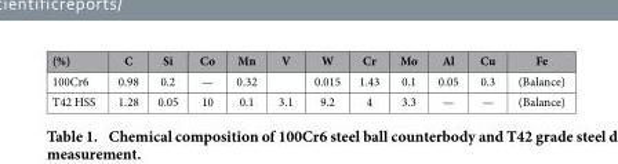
<table><thead><tr><td>(%)</td><td>C</td><td>Si</td><td>Co</td><td>Mn</td><td>V</td><td>W</td><td>Cr</td><td>Mo</td><td>Al</td><td>Cu</td><td>Fe</td></tr></thead><tbody><tr><td>100Cr6</td><td>0.98</td><td>0.2</td><td>—</td><td>0.32</td><td></td><td>0.015</td><td>1.43</td><td>0.1</td><td>0.05</td><td>0.3</td><td>(Balance)</td></tr><tr><td>T42 HSS</td><td>1.28</td><td>0.05</td><td>10</td><td>0.1</td><td>3.1</td><td>9.2</td><td>4</td><td>3.3</td><td>—</td><td>—</td><td>(Balance)</td></tr></tbody></table>